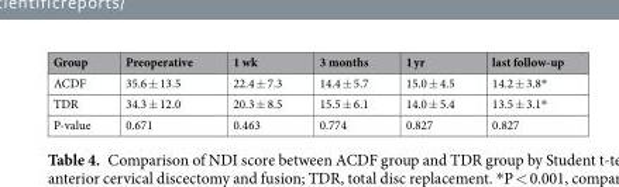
<table><thead><tr><td>Group</td><td>Preoperative</td><td>1 wk</td><td>3 months</td><td>1 yr</td><td>last follow-up</td></tr></thead><tbody><tr><td>ACDF</td><td>35.6 ± 13.5</td><td>22.4 ± 7.3</td><td>14.4 ± 5.7</td><td>15.0 ± 4.5</td><td>14.2 ± 3.8*</td></tr><tr><td>TDR</td><td>34.3 ± 12.0</td><td>20.3 ± 8.5</td><td>15.5 ± 6.1</td><td>14.0 ± 5.4</td><td>13.5 ± 3.1*</td></tr><tr><td>P-value</td><td>0.671</td><td>0.463</td><td>0.774</td><td>0.827</td><td>0.827</td></tr></tbody></table>